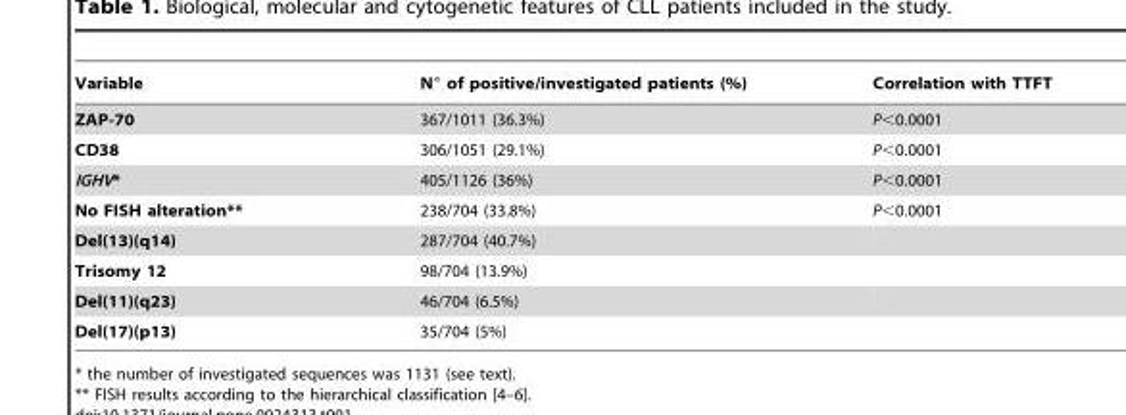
<table><thead><tr><td>Variable</td><td>N° of positive/investigated patients (%)</td><td>Correlation with TTFT</td></tr></thead><tbody><tr><td>ZAP-70</td><td>367/1011 (36.3%)</td><td>P&lt;0.0001</td></tr><tr><td>CD38</td><td>306/1051 (29.1%)</td><td>P&lt;0.0001</td></tr><tr><td>IGHV*</td><td>405/1126 (36%)</td><td>P&lt;0.0001</td></tr><tr><td>No FISH alteration**</td><td>238/704 (33.8%)</td><td>P&lt;0.0001</td></tr><tr><td>Del(13)(q14)</td><td>287/704 (40.7%)</td><td></td></tr><tr><td>Trisomy 12</td><td>98/704 (13.9%)</td><td></td></tr><tr><td>Del(11)(q23)</td><td>46/704 (6.5%)</td><td></td></tr><tr><td>Del(17)(p13)</td><td>35/704 (5%)</td><td></td></tr></tbody></table>